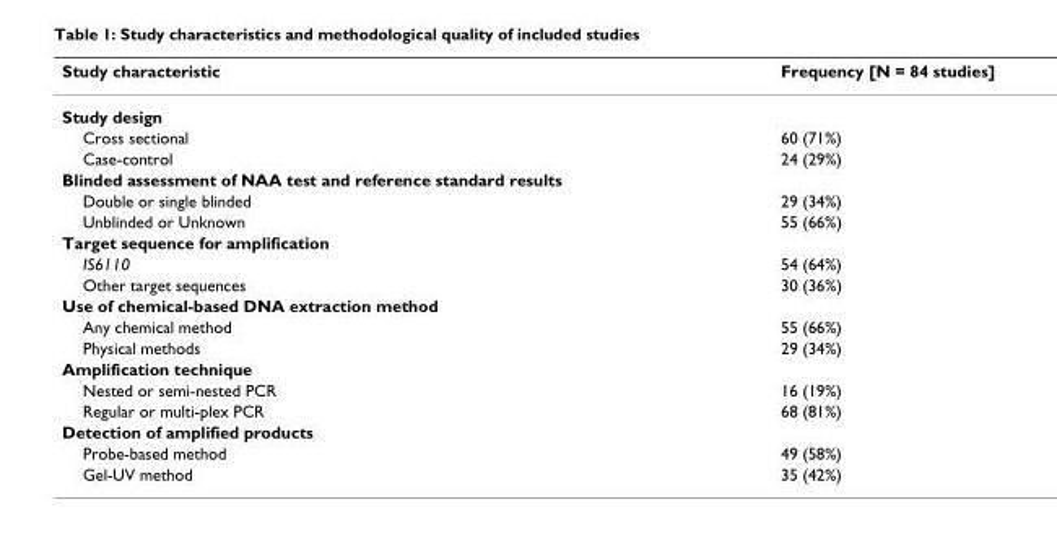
<table><thead><tr><td>Study characteristic</td><td>Frequency [N = 84 studies]</td></tr></thead><tbody><tr><td colspan="2">Study design</td></tr><tr><td>Cross sectional</td><td>60 (71%)</td></tr><tr><td>Case-control</td><td>24 (29%)</td></tr><tr><td colspan="2">Blinded assessment of NAA test and reference standard results</td></tr><tr><td>Double or single blinded</td><td>29 (34%)</td></tr><tr><td>Unblinded or Unknown</td><td>55 (66%)</td></tr><tr><td colspan="2">Target sequence for amplification</td></tr><tr><td>IS6110</td><td>54 (64%)</td></tr><tr><td>Other target sequences</td><td>30 (36%)</td></tr><tr><td colspan="2">Use of chemical-based DNA extraction method</td></tr><tr><td>Any chemical method</td><td>55 (66%)</td></tr><tr><td>Physical methods</td><td>29 (34%)</td></tr><tr><td colspan="2">Amplification technique</td></tr><tr><td>Nested or semi-nested PCR</td><td>16 (19%)</td></tr><tr><td>Regular or multi-plex PCR</td><td>68 (81%)</td></tr><tr><td colspan="2">Detection of amplified products</td></tr><tr><td>Probe-based method</td><td>49 (58%)</td></tr><tr><td>Gel-UV method</td><td>35 (42%)</td></tr></tbody></table>